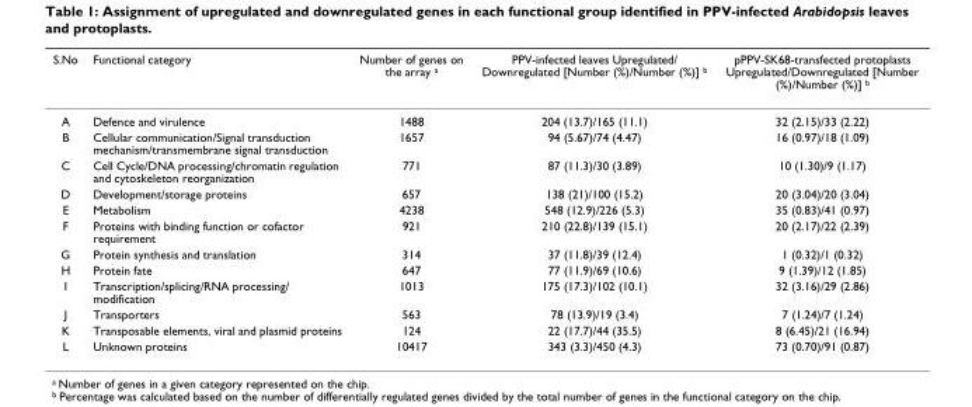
<table><thead><tr><td>S.No</td><td>Functional category</td><td>Number of genes on the array <sup>a</sup></td><td>PPV-infected leaves Upregulated/ Downregulated [Number (%)/Number (%)] <sup>b</sup></td><td>pPPV-SK68-transfected protoplasts Upregulated/Downregulated [Number (%)/Number (%)] <sup>b</sup></td></tr></thead><tbody><tr><td>A</td><td>Defence and virulence</td><td>1488</td><td>204 (13.7)/165 (11.1)</td><td>32 (2.15)/33 (2.22)</td></tr><tr><td>B</td><td>Cellular communication/Signal transduction mechanism/transmembrane signal transduction</td><td>1657</td><td>94 (5.67)/74 (4.47)</td><td>16 (0.97)/18 (1.09)</td></tr><tr><td>C</td><td>Cell Cycle/DNA processing/chromatin regulation and cytoskeleton reorganization</td><td>771</td><td>87 (11.3)/30 (3.89)</td><td>10 (1.30)/9 (1.17)</td></tr><tr><td>D</td><td>Development/storage proteins</td><td>657</td><td>138 (21)/100 (15.2)</td><td>20 (3.04)/20 (3.04)</td></tr><tr><td>E</td><td>Metabolism</td><td>4238</td><td>548 (12.9)/226 (5.3)</td><td>35 (0.83)/41 (0.97)</td></tr><tr><td>F</td><td>Proteins with binding function or cofactor requirement</td><td>921</td><td>210 (22.8)/139 (15.1)</td><td>20 (2.17)/22 (2.39)</td></tr><tr><td>G</td><td>Protein synthesis and translation</td><td>314</td><td>37 (11.8)/39 (12.4)</td><td>1 (0.32)/1 (0.32)</td></tr><tr><td>H</td><td>Protein fate</td><td>647</td><td>77 (11.9)/69 (10.6)</td><td>9 (1.39)/12 (1.85)</td></tr><tr><td>I</td><td>Transcription/splicing/RNA processing/ modification</td><td>1013</td><td>175 (17.3)/102 (10.1)</td><td>32 (3.16)/29 (2.86)</td></tr><tr><td>J</td><td>Transporters</td><td>563</td><td>78 (13.9)/19 (3.4)</td><td>7 (1.24)/7 (1.24)</td></tr><tr><td>K</td><td>Transposable elements, viral and plasmid proteins</td><td>124</td><td>22 (17.7)/44 (35.5)</td><td>8 (6.45)/21 (16.94)</td></tr><tr><td>L</td><td>Unknown proteins</td><td>10417</td><td>343 (3.3)/450 (4.3)</td><td>73 (0.70)/91 (0.87)</td></tr></tbody></table>